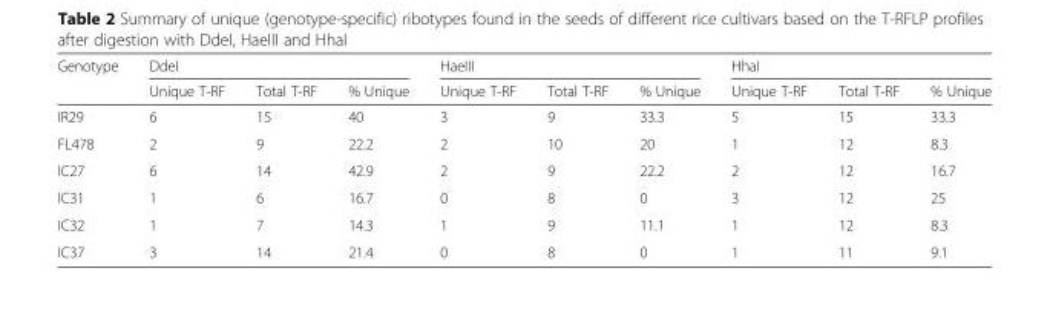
<table><thead><tr><td rowspan="2">Genotype</td><td colspan="3">DdeI</td><td colspan="3">HaeIII</td><td colspan="3">HhaI</td></tr><tr><td>Unique T-RF</td><td>Total T-RF</td><td>% Unique</td><td>Unique T-RF</td><td>Total T-RF</td><td>% Unique</td><td>Unique T-RF</td><td>Total T-RF</td><td>% Unique</td></tr></thead><tbody><tr><td>IR29</td><td>6</td><td>15</td><td>40</td><td>3</td><td>9</td><td>33.3</td><td>5</td><td>15</td><td>33.3</td></tr><tr><td>FL478</td><td>2</td><td>9</td><td>22.2</td><td>2</td><td>10</td><td>20</td><td>1</td><td>12</td><td>8.3</td></tr><tr><td>IC27</td><td>6</td><td>14</td><td>42.9</td><td>2</td><td>9</td><td>22.2</td><td>2</td><td>12</td><td>16.7</td></tr><tr><td>IC31</td><td>1</td><td>6</td><td>16.7</td><td>0</td><td>8</td><td>0</td><td>3</td><td>12</td><td>25</td></tr><tr><td>IC32</td><td>1</td><td>7</td><td>14.3</td><td>1</td><td>9</td><td>11.1</td><td>1</td><td>12</td><td>8.3</td></tr><tr><td>IC37</td><td>3</td><td>14</td><td>21.4</td><td>0</td><td>8</td><td>0</td><td>1</td><td>11</td><td>9.1</td></tr></tbody></table>